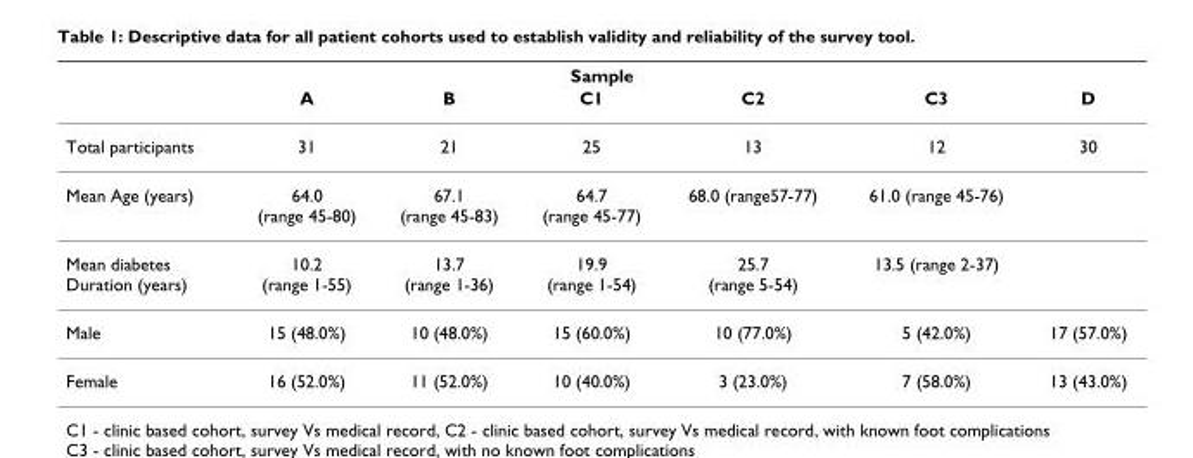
<table><thead><tr><td colspan="7">Sample</td></tr><tr><td></td><td>A</td><td>B</td><td>C1</td><td>C2</td><td>C3</td><td>D</td></tr></thead><tbody><tr><td>Total participants</td><td>31</td><td>21</td><td>25</td><td>13</td><td>12</td><td>30</td></tr><tr><td>Mean Age (years)</td><td>64.0 (range 45-80)</td><td>67.1 (range 45-83)</td><td>64.7 (range 45-77)</td><td>68.0 (range57-77)</td><td>61.0 (range 45-76)</td><td></td></tr><tr><td>Mean diabetes Duration (years)</td><td>10.2 (range 1-55)</td><td>13.7 (range 1-36)</td><td>19.9 (range 1-54)</td><td>25.7 (range 5-54)</td><td>13.5 (range 2-37)</td><td></td></tr><tr><td>Male</td><td>15 (48.0%)</td><td>10 (48.0%)</td><td>15 (60.0%)</td><td>10 (77.0%)</td><td>5 (42.0%)</td><td>17 (57.0%)</td></tr><tr><td>Female</td><td>16 (52.0%)</td><td>11 (52.0%)</td><td>10 (40.0%)</td><td>3 (23.0%)</td><td>7 (58.0%)</td><td>13 (43.0%)</td></tr></tbody></table>